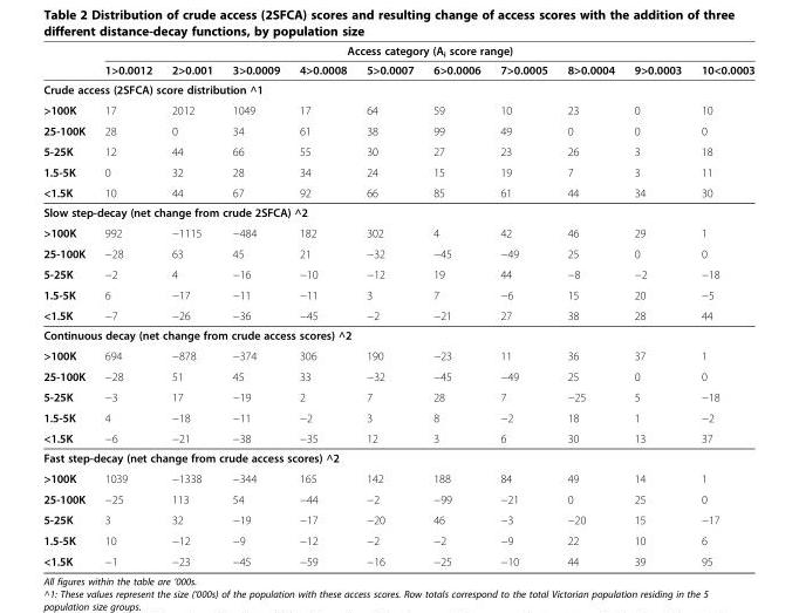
<table><thead><tr><td rowspan="2"></td><td colspan="10">Access category (A<sub>i</sub> score range)</td></tr><tr><td>1&gt;0.0012</td><td>2&gt;0.001</td><td>3&gt;0.0009</td><td>4&gt;0.0008</td><td>5&gt;0.0007</td><td>6&gt;0.0006</td><td>7&gt;0.0005</td><td>8&gt;0.0004</td><td>9&gt;0.0003</td><td>10&lt;0.0003</td></tr></thead><tbody><tr><td colspan="11">Crude access (2SFCA) score distribution ^1</td></tr><tr><td>&gt;100K</td><td>17</td><td>2012</td><td>1049</td><td>17</td><td>64</td><td>59</td><td>10</td><td>23</td><td>0</td><td>10</td></tr><tr><td>25-100K</td><td>28</td><td>0</td><td>34</td><td>61</td><td>38</td><td>99</td><td>49</td><td>0</td><td>0</td><td>0</td></tr><tr><td>5-25K</td><td>12</td><td>44</td><td>66</td><td>55</td><td>30</td><td>27</td><td>23</td><td>26</td><td>3</td><td>18</td></tr><tr><td>1.5-5K</td><td>0</td><td>32</td><td>28</td><td>34</td><td>24</td><td>15</td><td>19</td><td>7</td><td>3</td><td>11</td></tr><tr><td>&lt;1.5K</td><td>10</td><td>44</td><td>67</td><td>92</td><td>66</td><td>85</td><td>61</td><td>44</td><td>34</td><td>30</td></tr><tr><td colspan="11">Slow step-decay (net change from crude 2SFCA) ^2</td></tr><tr><td>&gt;100K</td><td>992</td><td>−1115</td><td>−484</td><td>182</td><td>302</td><td>4</td><td>42</td><td>46</td><td>29</td><td>1</td></tr><tr><td>25-100K</td><td>−28</td><td>63</td><td>45</td><td>21</td><td>−32</td><td>−45</td><td>−49</td><td>25</td><td>0</td><td>0</td></tr><tr><td>5-25K</td><td>−2</td><td>4</td><td>−16</td><td>−10</td><td>−12</td><td>19</td><td>44</td><td>−8</td><td>−2</td><td>−18</td></tr><tr><td>1.5-5K</td><td>6</td><td>−17</td><td>−11</td><td>−11</td><td>3</td><td>7</td><td>−6</td><td>15</td><td>20</td><td>−5</td></tr><tr><td>&lt;1.5K</td><td>−7</td><td>−26</td><td>−36</td><td>−45</td><td>−2</td><td>−21</td><td>27</td><td>38</td><td>28</td><td>44</td></tr><tr><td colspan="11">Continuous decay (net change from crude access scores) ^2</td></tr><tr><td>&gt;100K</td><td>694</td><td>−878</td><td>−374</td><td>306</td><td>190</td><td>−23</td><td>11</td><td>36</td><td>37</td><td>1</td></tr><tr><td>25-100K</td><td>−28</td><td>51</td><td>45</td><td>33</td><td>−32</td><td>−45</td><td>−49</td><td>25</td><td>0</td><td>0</td></tr><tr><td>5-25K</td><td>−3</td><td>17</td><td>−19</td><td>2</td><td>7</td><td>28</td><td>7</td><td>−25</td><td>5</td><td>−18</td></tr><tr><td>1.5-5K</td><td>4</td><td>−18</td><td>−11</td><td>−2</td><td>3</td><td>8</td><td>−2</td><td>18</td><td>1</td><td>−2</td></tr><tr><td>&lt;1.5K</td><td>−6</td><td>−21</td><td>−38</td><td>−35</td><td>12</td><td>3</td><td>6</td><td>30</td><td>13</td><td>37</td></tr><tr><td colspan="11">Fast step-decay (net change from crude access scores) ^2</td></tr><tr><td>&gt;100K</td><td>1039</td><td>−1338</td><td>−344</td><td>165</td><td>142</td><td>188</td><td>84</td><td>49</td><td>14</td><td>1</td></tr><tr><td>25-100K</td><td>−25</td><td>113</td><td>54</td><td>−44</td><td>−2</td><td>−99</td><td>−21</td><td>0</td><td>25</td><td>0</td></tr><tr><td>5-25K</td><td>3</td><td>32</td><td>−19</td><td>−17</td><td>−20</td><td>46</td><td>−3</td><td>−20</td><td>15</td><td>−17</td></tr><tr><td>1.5-5K</td><td>10</td><td>−12</td><td>−9</td><td>−12</td><td>−2</td><td>−2</td><td>−9</td><td>22</td><td>10</td><td>6</td></tr><tr><td>&lt;1.5K</td><td>−1</td><td>−23</td><td>−45</td><td>−59</td><td>−16</td><td>−25</td><td>−10</td><td>44</td><td>39</td><td>95</td></tr></tbody></table>